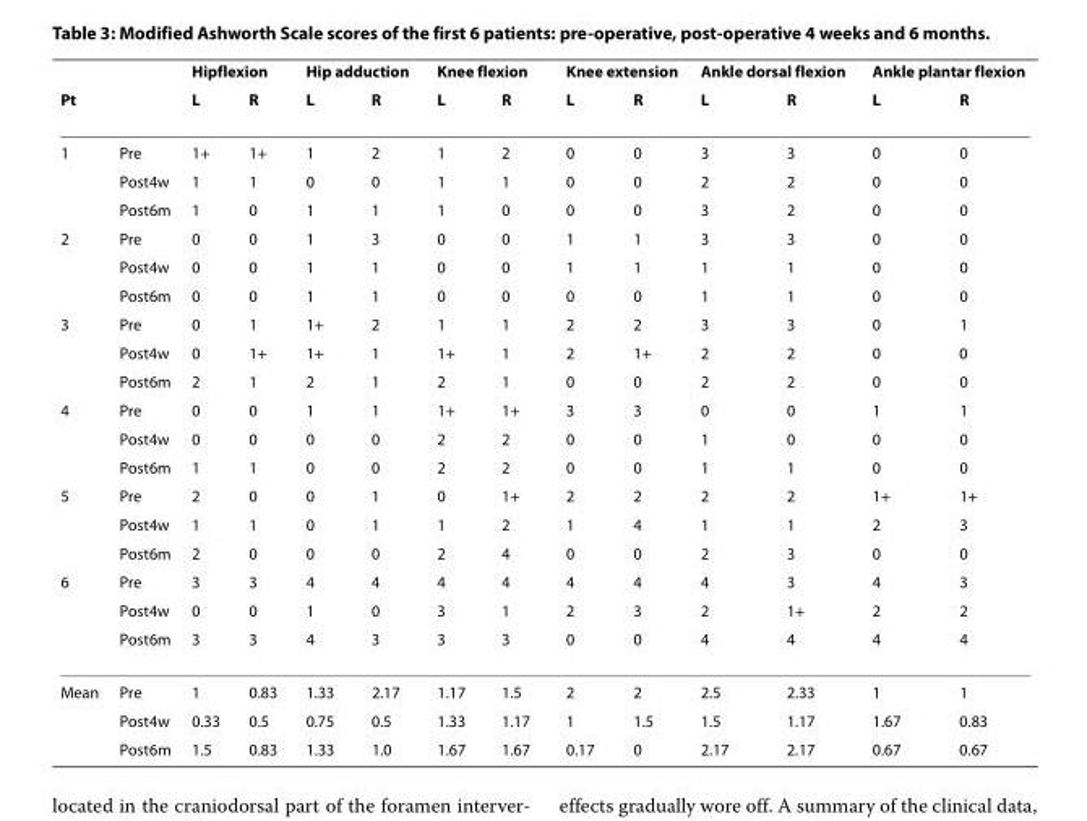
<table><thead><tr><td rowspan="2">Pt</td><td rowspan="2"></td><td colspan="2">Hipflexion</td><td colspan="2">Hip adduction</td><td colspan="2">Knee flexion</td><td colspan="2">Knee extension</td><td colspan="2">Ankle dorsal flexion</td><td colspan="2">Ankle plantar flexion</td></tr><tr><td>L</td><td>R</td><td>L</td><td>R</td><td>L</td><td>R</td><td>L</td><td>R</td><td>L</td><td>R</td><td>L</td><td>R</td></tr></thead><tbody><tr><td rowspan="3">1</td><td>Pre</td><td>1+</td><td>1+</td><td>1</td><td>2</td><td>1</td><td>2</td><td>0</td><td>0</td><td>3</td><td>3</td><td>0</td><td>0</td></tr><tr><td>Post4w</td><td>1</td><td>1</td><td>0</td><td>0</td><td>1</td><td>1</td><td>0</td><td>0</td><td>2</td><td>2</td><td>0</td><td>0</td></tr><tr><td>Post6m</td><td>1</td><td>0</td><td>1</td><td>1</td><td>1</td><td>0</td><td>0</td><td>0</td><td>3</td><td>2</td><td>0</td><td>0</td></tr><tr><td rowspan="3">2</td><td>Pre</td><td>0</td><td>0</td><td>1</td><td>3</td><td>0</td><td>0</td><td>1</td><td>1</td><td>3</td><td>3</td><td>0</td><td>0</td></tr><tr><td>Post4w</td><td>0</td><td>0</td><td>1</td><td>1</td><td>0</td><td>0</td><td>1</td><td>1</td><td>1</td><td>1</td><td>0</td><td>0</td></tr><tr><td>Post6m</td><td>0</td><td>0</td><td>1</td><td>1</td><td>0</td><td>0</td><td>0</td><td>0</td><td>1</td><td>1</td><td>0</td><td>0</td></tr><tr><td rowspan="3">3</td><td>Pre</td><td>0</td><td>1</td><td>1+</td><td>2</td><td>1</td><td>1</td><td>2</td><td>2</td><td>3</td><td>3</td><td>0</td><td>1</td></tr><tr><td>Post4w</td><td>0</td><td>1+</td><td>1+</td><td>1</td><td>1+</td><td>1</td><td>2</td><td>1+</td><td>2</td><td>2</td><td>0</td><td>0</td></tr><tr><td>Post6m</td><td>2</td><td>1</td><td>2</td><td>1</td><td>2</td><td>1</td><td>0</td><td>0</td><td>2</td><td>2</td><td>0</td><td>0</td></tr><tr><td rowspan="3">4</td><td>Pre</td><td>0</td><td>0</td><td>1</td><td>1</td><td>1+</td><td>1+</td><td>3</td><td>3</td><td>0</td><td>0</td><td>1</td><td>1</td></tr><tr><td>Post4w</td><td>0</td><td>0</td><td>0</td><td>0</td><td>2</td><td>2</td><td>0</td><td>0</td><td>1</td><td>0</td><td>0</td><td>0</td></tr><tr><td>Post6m</td><td>1</td><td>1</td><td>0</td><td>0</td><td>2</td><td>2</td><td>0</td><td>0</td><td>1</td><td>1</td><td>0</td><td>0</td></tr><tr><td rowspan="3">5</td><td>Pre</td><td>2</td><td>0</td><td>0</td><td>1</td><td>0</td><td>1+</td><td>2</td><td>2</td><td>2</td><td>2</td><td>1+</td><td>1+</td></tr><tr><td>Post4w</td><td>1</td><td>1</td><td>0</td><td>1</td><td>1</td><td>2</td><td>1</td><td>4</td><td>1</td><td>1</td><td>2</td><td>3</td></tr><tr><td>Post6m</td><td>2</td><td>0</td><td>0</td><td>0</td><td>2</td><td>4</td><td>0</td><td>0</td><td>2</td><td>3</td><td>0</td><td>0</td></tr><tr><td rowspan="3">6</td><td>Pre</td><td>3</td><td>3</td><td>4</td><td>4</td><td>4</td><td>4</td><td>4</td><td>4</td><td>4</td><td>3</td><td>4</td><td>3</td></tr><tr><td>Post4w</td><td>0</td><td>0</td><td>1</td><td>0</td><td>3</td><td>1</td><td>2</td><td>3</td><td>2</td><td>1+</td><td>2</td><td>2</td></tr><tr><td>Post6m</td><td>3</td><td>3</td><td>4</td><td>3</td><td>3</td><td>3</td><td>0</td><td>0</td><td>4</td><td>4</td><td>4</td><td>4</td></tr><tr><td rowspan="3">Mean</td><td>Pre</td><td>1</td><td>0.83</td><td>1.33</td><td>2.17</td><td>1.17</td><td>1.5</td><td>2</td><td>2</td><td>2.5</td><td>2.33</td><td>1</td><td>1</td></tr><tr><td>Post4w</td><td>0.33</td><td>0.5</td><td>0.75</td><td>0.5</td><td>1.33</td><td>1.17</td><td>1</td><td>1.5</td><td>1.5</td><td>1.17</td><td>1.67</td><td>0.83</td></tr><tr><td>Post6m</td><td>1.5</td><td>0.83</td><td>1.33</td><td>1.0</td><td>1.67</td><td>1.67</td><td>0.17</td><td>0</td><td>2.17</td><td>2.17</td><td>0.67</td><td>0.67</td></tr></tbody></table>